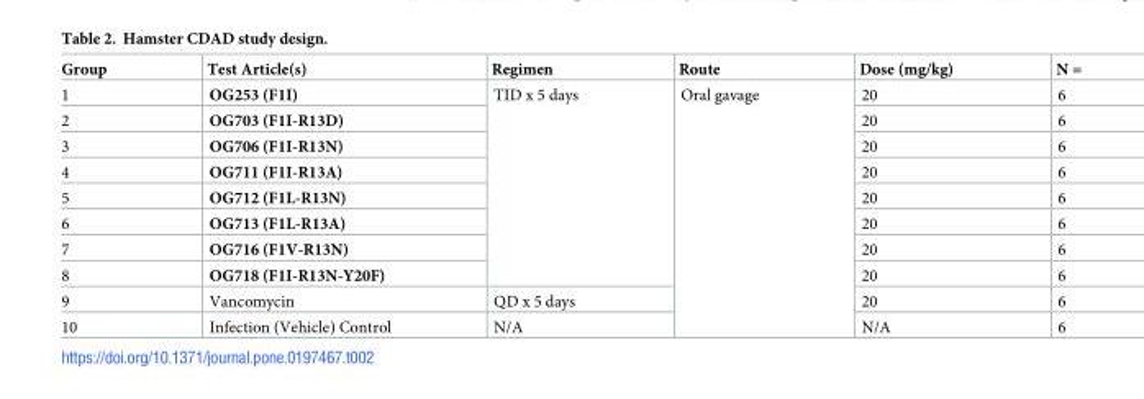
<table><thead><tr><td>Group</td><td>Test Article(s)</td><td>Regimen</td><td>Route</td><td>Dose (mg/kg)</td><td>N =</td></tr></thead><tbody><tr><td>1</td><td>OG253 (F1I)</td><td rowspan="8">TID x 5 days</td><td rowspan="10">Oral gavage</td><td>20</td><td>6</td></tr><tr><td>2</td><td>OG703 (F1I-R13D)</td><td>20</td><td>6</td></tr><tr><td>3</td><td>OG706 (F1I-R13N)</td><td>20</td><td>6</td></tr><tr><td>4</td><td>OG711 (F1I-R13A)</td><td>20</td><td>6</td></tr><tr><td>5</td><td>OG712 (F1L-R13N)</td><td>20</td><td>6</td></tr><tr><td>6</td><td>OG713 (F1L-R13A)</td><td>20</td><td>6</td></tr><tr><td>7</td><td>OG716 (F1V-R13N)</td><td>20</td><td>6</td></tr><tr><td>8</td><td>OG718 (F1I-R13N-Y20F)</td><td>20</td><td>6</td></tr><tr><td>9</td><td>Vancomycin</td><td>QD x 5 days</td><td>20</td><td>6</td></tr><tr><td>10</td><td>Infection (Vehicle) Control</td><td>N/A</td><td>N/A</td><td>6</td></tr></tbody></table>